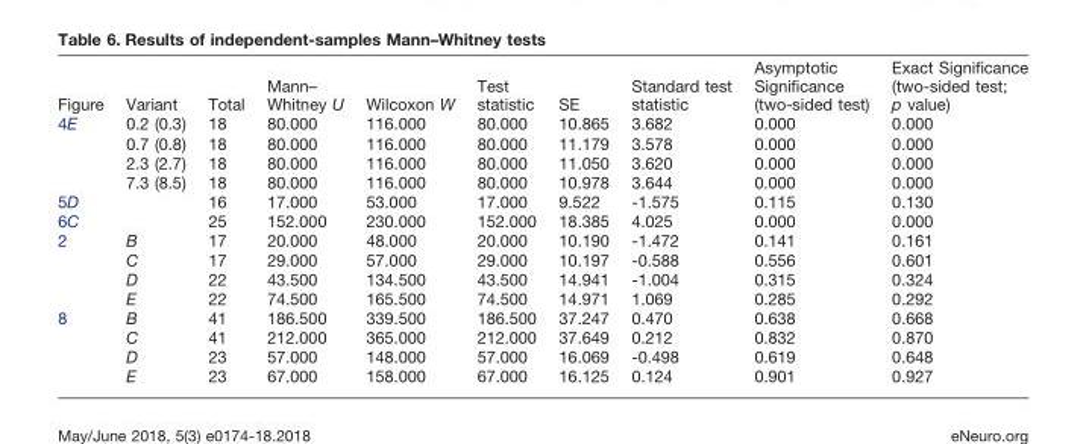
<table><thead><tr><td>Figure</td><td>Variant</td><td>Total</td><td>Mann– Whitney U</td><td>Wilcoxon W</td><td>Test statistic</td><td>SE</td><td>Standard test statistic</td><td>Asymptotic Significance (two-sided test)</td><td>Exact Significance (two-sided test; p value)</td></tr></thead><tbody><tr><td rowspan="4">4E</td><td>0.2 (0.3)</td><td>18</td><td>80.000</td><td>116.000</td><td>80.000</td><td>10.865</td><td>3.682</td><td>0.000</td><td>0.000</td></tr><tr><td>0.7 (0.8)</td><td>18</td><td>80.000</td><td>116.000</td><td>80.000</td><td>11.179</td><td>3.578</td><td>0.000</td><td>0.000</td></tr><tr><td>2.3 (2.7)</td><td>18</td><td>80.000</td><td>116.000</td><td>80.000</td><td>11.050</td><td>3.620</td><td>0.000</td><td>0.000</td></tr><tr><td>7.3 (8.5)</td><td>18</td><td>80.000</td><td>116.000</td><td>80.000</td><td>10.978</td><td>3.644</td><td>0.000</td><td>0.000</td></tr><tr><td>5D</td><td></td><td>16</td><td>17.000</td><td>53.000</td><td>17.000</td><td>9.522</td><td>-1.575</td><td>0.115</td><td>0.130</td></tr><tr><td>6C</td><td></td><td>25</td><td>152.000</td><td>230.000</td><td>152.000</td><td>18.385</td><td>4.025</td><td>0.000</td><td>0.000</td></tr><tr><td rowspan="4">2</td><td>B</td><td>17</td><td>20.000</td><td>48.000</td><td>20.000</td><td>10.190</td><td>-1.472</td><td>0.141</td><td>0.161</td></tr><tr><td>C</td><td>17</td><td>29.000</td><td>57.000</td><td>29.000</td><td>10.197</td><td>-0.588</td><td>0.556</td><td>0.601</td></tr><tr><td>D</td><td>22</td><td>43.500</td><td>134.500</td><td>43.500</td><td>14.941</td><td>-1.004</td><td>0.315</td><td>0.324</td></tr><tr><td>E</td><td>22</td><td>74.500</td><td>165.500</td><td>74.500</td><td>14.971</td><td>1.069</td><td>0.285</td><td>0.292</td></tr><tr><td rowspan="4">8</td><td>B</td><td>41</td><td>186.500</td><td>339.500</td><td>186.500</td><td>37.247</td><td>0.470</td><td>0.638</td><td>0.668</td></tr><tr><td>C</td><td>41</td><td>212.000</td><td>365.000</td><td>212.000</td><td>37.649</td><td>0.212</td><td>0.832</td><td>0.870</td></tr><tr><td>D</td><td>23</td><td>57.000</td><td>148.000</td><td>57.000</td><td>16.069</td><td>-0.498</td><td>0.619</td><td>0.648</td></tr><tr><td>E</td><td>23</td><td>67.000</td><td>158.000</td><td>67.000</td><td>16.125</td><td>0.124</td><td>0.901</td><td>0.927</td></tr></tbody></table>